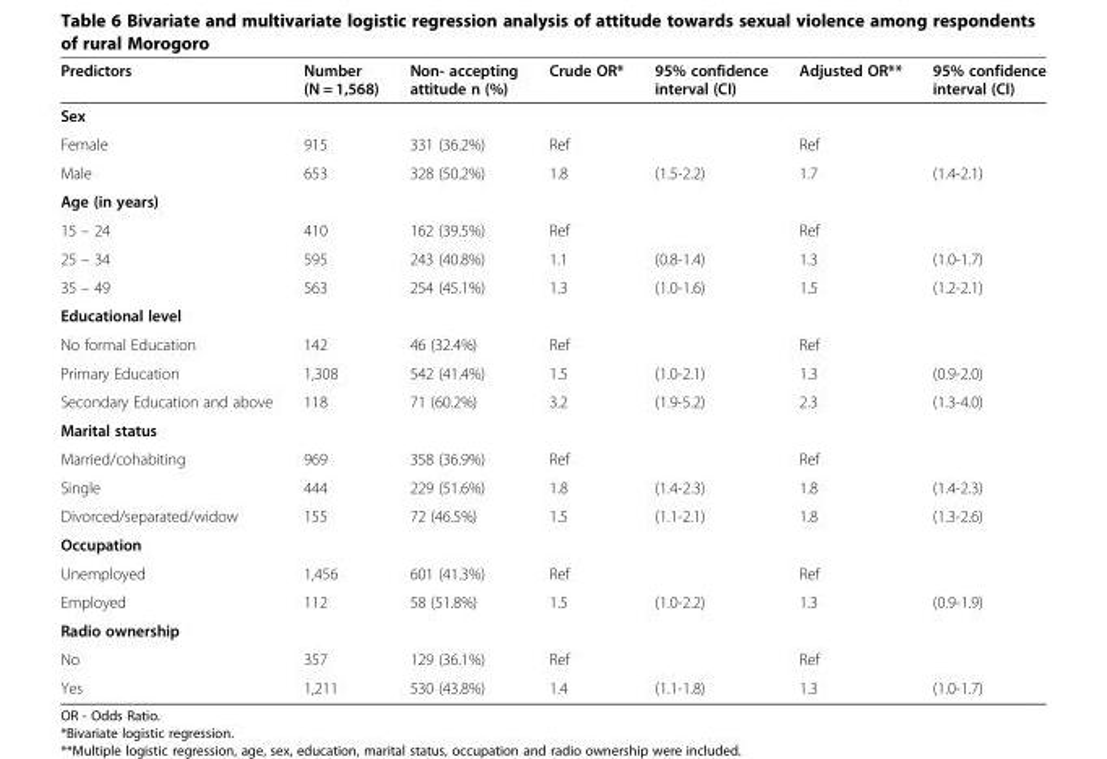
<table><thead><tr><td>Predictors</td><td>Number (N = 1,568)</td><td>Non- accepting attitude n (%)</td><td>Crude OR*</td><td>95% confidence interval (CI)</td><td>Adjusted OR**</td><td>95% confidence interval (CI)</td></tr></thead><tbody><tr><td colspan="7">Sex</td></tr><tr><td>Female</td><td>915</td><td>331 (36.2%)</td><td>Ref</td><td></td><td>Ref</td><td></td></tr><tr><td>Male</td><td>653</td><td>328 (50.2%)</td><td>1.8</td><td>(1.5-2.2)</td><td>1.7</td><td>(1.4-2.1)</td></tr><tr><td colspan="7">Age (in years)</td></tr><tr><td>15 – 24</td><td>410</td><td>162 (39.5%)</td><td>Ref</td><td></td><td>Ref</td><td></td></tr><tr><td>25 – 34</td><td>595</td><td>243 (40.8%)</td><td>1.1</td><td>(0.8-1.4)</td><td>1.3</td><td>(1.0-1.7)</td></tr><tr><td>35 – 49</td><td>563</td><td>254 (45.1%)</td><td>1.3</td><td>(1.0-1.6)</td><td>1.5</td><td>(1.2-2.1)</td></tr><tr><td colspan="7">Educational level</td></tr><tr><td>No formal Education</td><td>142</td><td>46 (32.4%)</td><td>Ref</td><td></td><td>Ref</td><td></td></tr><tr><td>Primary Education</td><td>1,308</td><td>542 (41.4%)</td><td>1.5</td><td>(1.0-2.1)</td><td>1.3</td><td>(0.9-2.0)</td></tr><tr><td>Secondary Education and above</td><td>118</td><td>71 (60.2%)</td><td>3.2</td><td>(1.9-5.2)</td><td>2.3</td><td>(1.3-4.0)</td></tr><tr><td colspan="7">Marital status</td></tr><tr><td>Married/cohabiting</td><td>969</td><td>358 (36.9%)</td><td>Ref</td><td></td><td>Ref</td><td></td></tr><tr><td>Single</td><td>444</td><td>229 (51.6%)</td><td>1.8</td><td>(1.4-2.3)</td><td>1.8</td><td>(1.4-2.3)</td></tr><tr><td>Divorced/separated/widow</td><td>155</td><td>72 (46.5%)</td><td>1.5</td><td>(1.1-2.1)</td><td>1.8</td><td>(1.3-2.6)</td></tr><tr><td colspan="7">Occupation</td></tr><tr><td>Unemployed</td><td>1,456</td><td>601 (41.3%)</td><td>Ref</td><td></td><td>Ref</td><td></td></tr><tr><td>Employed</td><td>112</td><td>58 (51.8%)</td><td>1.5</td><td>(1.0-2.2)</td><td>1.3</td><td>(0.9-1.9)</td></tr><tr><td colspan="7">Radio ownership</td></tr><tr><td>No</td><td>357</td><td>129 (36.1%)</td><td>Ref</td><td></td><td>Ref</td><td></td></tr><tr><td>Yes</td><td>1,211</td><td>530 (43.8%)</td><td>1.4</td><td>(1.1-1.8)</td><td>1.3</td><td>(1.0-1.7)</td></tr></tbody></table>